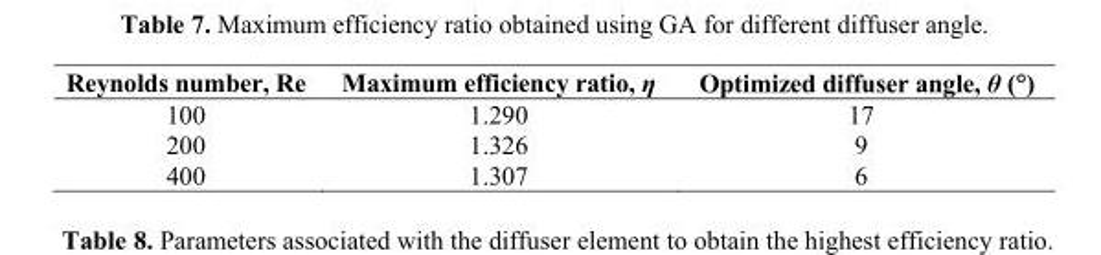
<table><thead><tr><td>Reynolds number, Re</td><td>Maximum efficiency ratio, η</td><td>Optimized diffuser angle, θ (°)</td></tr></thead><tbody><tr><td>100</td><td>1.290</td><td>17</td></tr><tr><td>200</td><td>1.326</td><td>9</td></tr><tr><td>400</td><td>1.307</td><td>6</td></tr></tbody></table>